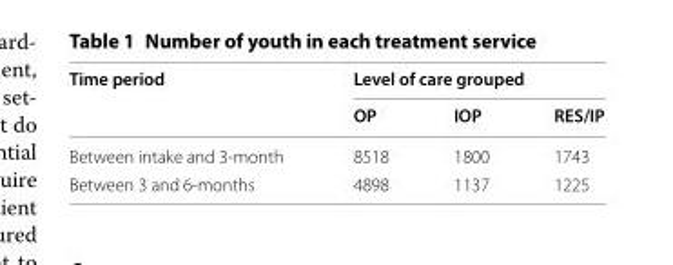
<table><thead><tr><td rowspan="2">Time period</td><td colspan="3">Level of care grouped</td></tr><tr><td>OP</td><td>IOP</td><td>RES/IP</td></tr></thead><tbody><tr><td>Between intake and 3-month</td><td>8518</td><td>1800</td><td>1743</td></tr><tr><td>Between 3 and 6-months</td><td>4898</td><td>1137</td><td>1225</td></tr></tbody></table>